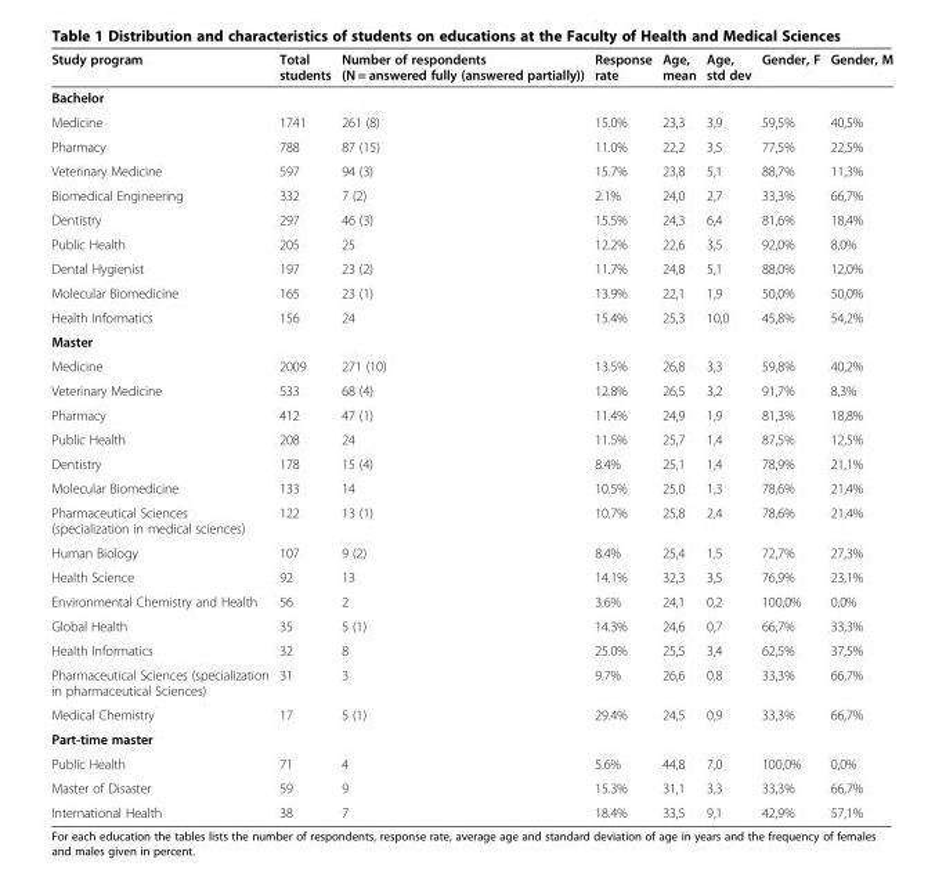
<table><thead><tr><td>Study program</td><td>Total students</td><td>Number of respondents (N = answered fully (answered partially))</td><td>Response rate</td><td>Age, mean</td><td>Age, std dev</td><td>Gender, F</td><td>Gender, M</td></tr></thead><tbody><tr><td colspan="8">Bachelor</td></tr><tr><td>Medicine</td><td>1741</td><td>261 (8)</td><td>15.0%</td><td>23,3</td><td>3,9</td><td>59,5%</td><td>40,5%</td></tr><tr><td>Pharmacy</td><td>788</td><td>87 (15)</td><td>11.0%</td><td>22,2</td><td>3,5</td><td>77,5%</td><td>22,5%</td></tr><tr><td>Veterinary Medicine</td><td>597</td><td>94 (3)</td><td>15.7%</td><td>23,8</td><td>5,1</td><td>88,7%</td><td>11,3%</td></tr><tr><td>Biomedical Engineering</td><td>332</td><td>7 (2)</td><td>2.1%</td><td>24,0</td><td>2,7</td><td>33,3%</td><td>66,7%</td></tr><tr><td>Dentistry</td><td>297</td><td>46 (3)</td><td>15.5%</td><td>24,3</td><td>6,4</td><td>81,6%</td><td>18,4%</td></tr><tr><td>Public Health</td><td>205</td><td>25</td><td>12.2%</td><td>22,6</td><td>3,5</td><td>92,0%</td><td>8,0%</td></tr><tr><td>Dental Hygienist</td><td>197</td><td>23 (2)</td><td>11.7%</td><td>24,8</td><td>5,1</td><td>88,0%</td><td>12,0%</td></tr><tr><td>Molecular Biomedicine</td><td>165</td><td>23 (1)</td><td>13.9%</td><td>22,1</td><td>1,9</td><td>50,0%</td><td>50,0%</td></tr><tr><td>Health Informatics</td><td>156</td><td>24</td><td>15.4%</td><td>25,3</td><td>10,0</td><td>45,8%</td><td>54,2%</td></tr><tr><td colspan="8">Master</td></tr><tr><td>Medicine</td><td>2009</td><td>271 (10)</td><td>13.5%</td><td>26,8</td><td>3,3</td><td>59,8%</td><td>40,2%</td></tr><tr><td>Veterinary Medicine</td><td>533</td><td>68 (4)</td><td>12.8%</td><td>26,5</td><td>3,2</td><td>91,7%</td><td>8,3%</td></tr><tr><td>Pharmacy</td><td>412</td><td>47 (1)</td><td>11.4%</td><td>24,9</td><td>1,9</td><td>81,3%</td><td>18,8%</td></tr><tr><td>Public Health</td><td>208</td><td>24</td><td>11.5%</td><td>25,7</td><td>1,4</td><td>87,5%</td><td>12,5%</td></tr><tr><td>Dentistry</td><td>178</td><td>15 (4)</td><td>8.4%</td><td>25,1</td><td>1,4</td><td>78,9%</td><td>21,1%</td></tr><tr><td>Molecular Biomedicine</td><td>133</td><td>14</td><td>10.5%</td><td>25,0</td><td>1,3</td><td>78,6%</td><td>21,4%</td></tr><tr><td>Pharmaceutical Sciences (specialization in medical sciences)</td><td>122</td><td>13 (1)</td><td>10.7%</td><td>25,8</td><td>2,4</td><td>78,6%</td><td>21,4%</td></tr><tr><td>Human Biology</td><td>107</td><td>9 (2)</td><td>8.4%</td><td>25,4</td><td>1,5</td><td>72,7%</td><td>27,3%</td></tr><tr><td>Health Science</td><td>92</td><td>13</td><td>14.1%</td><td>32,3</td><td>3,5</td><td>76,9%</td><td>23,1%</td></tr><tr><td>Environmental Chemistry and Health</td><td>56</td><td>2</td><td>3.6%</td><td>24,1</td><td>0,2</td><td>100,0%</td><td>0,0%</td></tr><tr><td>Global Health</td><td>35</td><td>5 (1)</td><td>14.3%</td><td>24,6</td><td>0,7</td><td>66,7%</td><td>33,3%</td></tr><tr><td>Health Informatics</td><td>32</td><td>8</td><td>25.0%</td><td>25,5</td><td>3,4</td><td>62,5%</td><td>37,5%</td></tr><tr><td>Pharmaceutical Sciences (specialization in pharmaceutical Sciences)</td><td>31</td><td>3</td><td>9.7%</td><td>26,6</td><td>0,8</td><td>33,3%</td><td>66,7%</td></tr><tr><td>Medical Chemistry</td><td>17</td><td>5 (1)</td><td>29.4%</td><td>24,5</td><td>0,9</td><td>33,3%</td><td>66,7%</td></tr><tr><td colspan="8">Part-time master</td></tr><tr><td>Public Health</td><td>71</td><td>4</td><td>5.6%</td><td>44,8</td><td>7,0</td><td>100,0%</td><td>0,0%</td></tr><tr><td>Master of Disaster</td><td>59</td><td>9</td><td>15.3%</td><td>31,1</td><td>3,3</td><td>33,3%</td><td>66,7%</td></tr><tr><td>International Health</td><td>38</td><td>7</td><td>18.4%</td><td>33,5</td><td>9,1</td><td>42,9%</td><td>57,1%</td></tr></tbody></table>